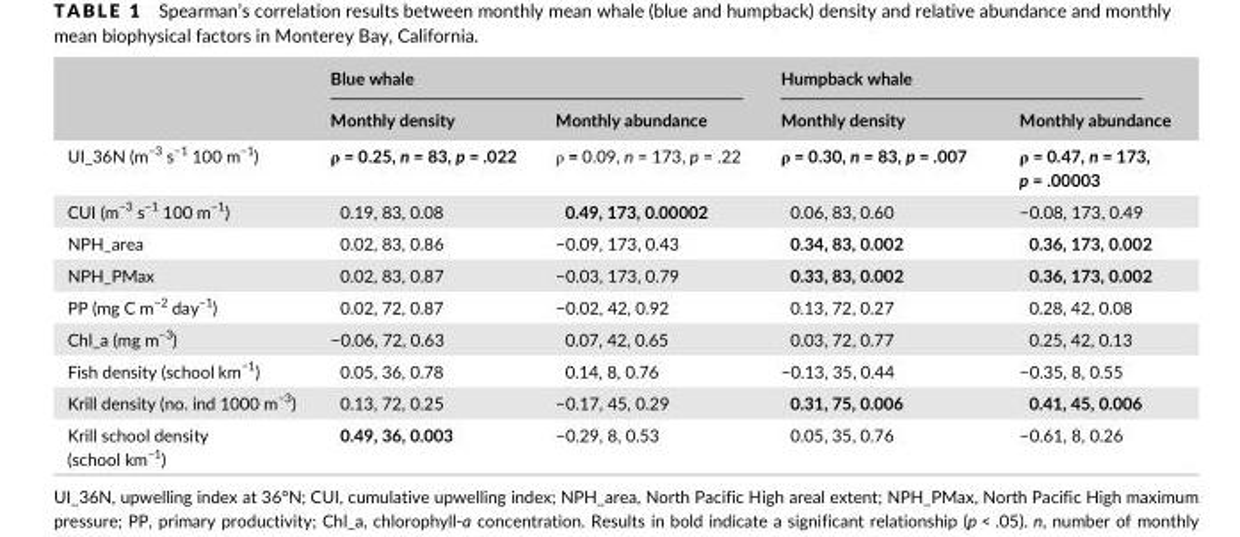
<table><thead><tr><td rowspan="2"></td><td colspan="2">Blue whale</td><td colspan="2">Humpback whale</td></tr><tr><td>Monthly density</td><td>Monthly abundance</td><td>Monthly density</td><td>Monthly abundance</td></tr></thead><tbody><tr><td>UI_36N (m<sup>−3</sup> s<sup>−1</sup> 100 m<sup>−1</sup>)</td><td>ρ = 0.25, n = 83, p = .022</td><td>ρ = 0.09, n = 173, p = .22</td><td>ρ = 0.30, n = 83, p = .007</td><td>ρ = 0.47, n = 173, p = .00003</td></tr><tr><td>CUI (m<sup>−3</sup> s<sup>−1</sup> 100 m<sup>−1</sup>)</td><td>0.19, 83, 0.08</td><td>0.49, 173, 0.00002</td><td>0.06, 83, 0.60</td><td>−0.08, 173, 0.49</td></tr><tr><td>NPH_area</td><td>0.02, 83, 0.86</td><td>−0.09, 173, 0.43</td><td>0.34, 83, 0.002</td><td>0.36, 173, 0.002</td></tr><tr><td>NPH_PMax</td><td>0.02, 83, 0.87</td><td>−0.03, 173, 0.79</td><td>0.33, 83, 0.002</td><td>0.36, 173, 0.002</td></tr><tr><td>PP (mg C m<sup>−2</sup> day<sup>−1</sup>)</td><td>0.02, 72, 0.87</td><td>−0.02, 42, 0.92</td><td>0.13, 72, 0.27</td><td>0.28, 42, 0.08</td></tr><tr><td>Chl_a (mg m<sup>−3</sup>)</td><td>−0.06, 72, 0.63</td><td>0.07, 42, 0.65</td><td>0.03, 72, 0.77</td><td>0.25, 42, 0.13</td></tr><tr><td>Fish density (school km<sup>−1</sup>)</td><td>0.05, 36, 0.78</td><td>0.14, 8, 0.76</td><td>−0.13, 35, 0.44</td><td>−0.35, 8, 0.55</td></tr><tr><td>Krill density (no. ind 1000 m<sup>−3</sup>)</td><td>0.13, 72, 0.25</td><td>−0.17, 45, 0.29</td><td>0.31, 75, 0.006</td><td>0.41, 45, 0.006</td></tr><tr><td>Krill school density (school km<sup>−1</sup>)</td><td>0.49, 36, 0.003</td><td>−0.29, 8, 0.53</td><td>0.05, 35, 0.76</td><td>−0.61, 8, 0.26</td></tr></tbody></table>